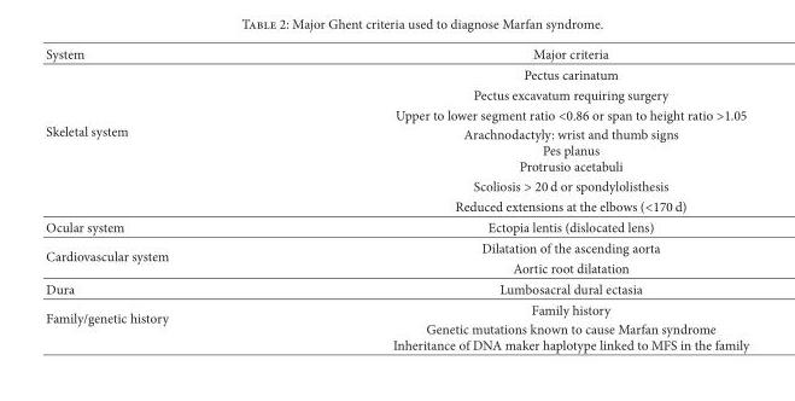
<table><thead><tr><td>System</td><td>Major criteria</td></tr></thead><tbody><tr><td rowspan="6">Skeletal system</td><td>Pectus carinatum</td></tr><tr><td>Pectus excavatum requiring surgery</td></tr><tr><td>Upper to lower segment ratio &lt;0.86 or span to height ratio &gt;1.05</td></tr><tr><td>Arachnodactyly: wrist and thumb signs Pes planus Protrusio acetabuli</td></tr><tr><td>Scoliosis &gt; 20 d or spondylolisthesis</td></tr><tr><td>Reduced extensions at the elbows (&lt;170 d)</td></tr><tr><td>Ocular system</td><td>Ectopia lentis (dislocated lens)</td></tr><tr><td rowspan="2">Cardiovascular system</td><td>Dilatation of the ascending aorta</td></tr><tr><td>Aortic root dilatation</td></tr><tr><td>Dura</td><td>Lumbosacral dural ectasia</td></tr><tr><td rowspan="2">Family/genetic history</td><td>Family history</td></tr><tr><td>Genetic mutations known to cause Marfan syndrome Inheritance of DNA maker haplotype linked to MFS in the family</td></tr></tbody></table>